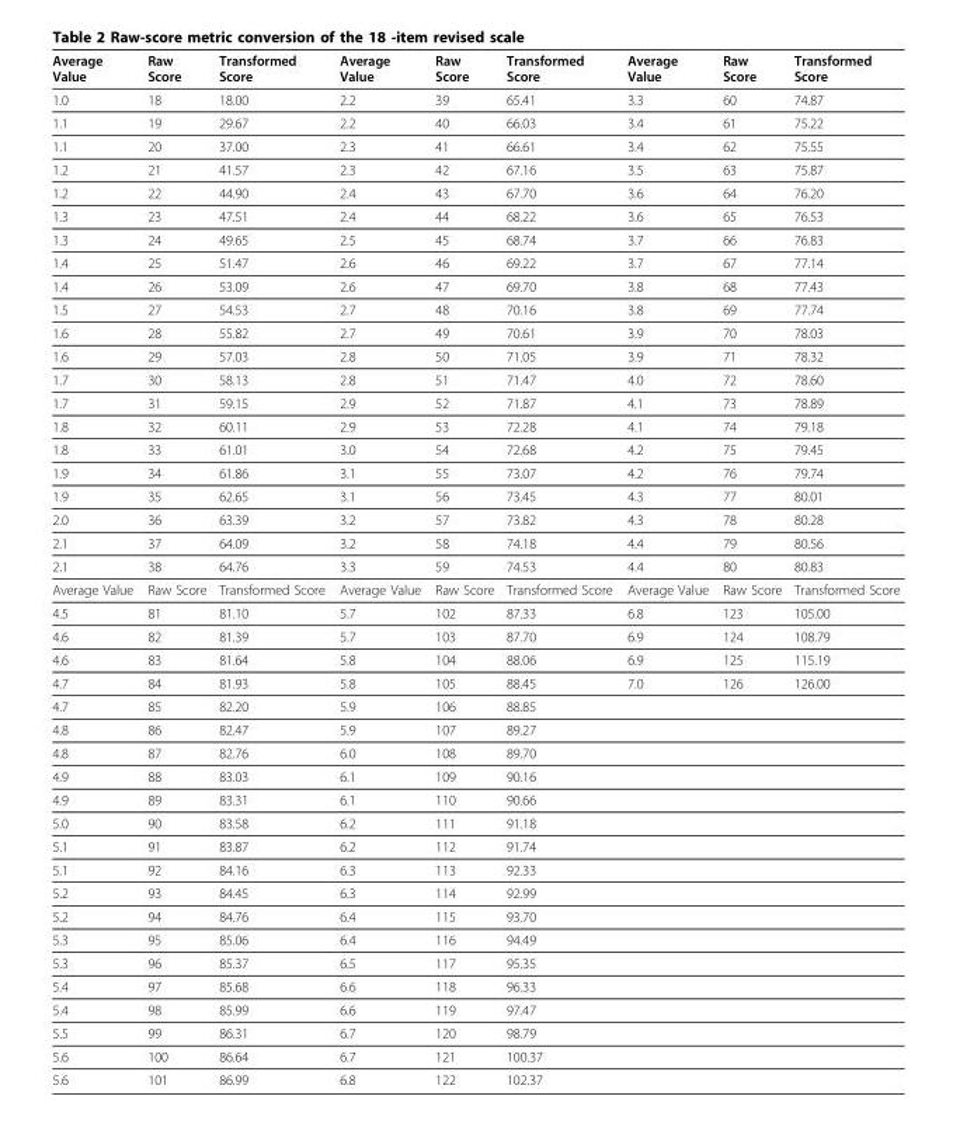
<table><thead><tr><td>Average Value</td><td>Raw Score</td><td>Transformed Score</td><td>Average Value</td><td>Raw Score</td><td>Transformed Score</td><td>Average Value</td><td>Raw Score</td><td>Transformed Score</td></tr></thead><tbody><tr><td>1.0</td><td>18</td><td>18.00</td><td>2.2</td><td>39</td><td>65.41</td><td>3.3</td><td>60</td><td>74.87</td></tr><tr><td>1.1</td><td>19</td><td>29.67</td><td>2.2</td><td>40</td><td>66.03</td><td>3.4</td><td>61</td><td>75.22</td></tr><tr><td>1.1</td><td>20</td><td>37.00</td><td>2.3</td><td>41</td><td>66.61</td><td>3.4</td><td>62</td><td>75.55</td></tr><tr><td>1.2</td><td>21</td><td>41.57</td><td>2.3</td><td>42</td><td>67.16</td><td>3.5</td><td>63</td><td>75.87</td></tr><tr><td>1.2</td><td>22</td><td>44.90</td><td>2.4</td><td>43</td><td>67.70</td><td>3.6</td><td>64</td><td>76.20</td></tr><tr><td>1.3</td><td>23</td><td>47.51</td><td>2.4</td><td>44</td><td>68.22</td><td>3.6</td><td>65</td><td>76.53</td></tr><tr><td>1.3</td><td>24</td><td>49.65</td><td>2.5</td><td>45</td><td>68.74</td><td>3.7</td><td>66</td><td>76.83</td></tr><tr><td>1.4</td><td>25</td><td>51.47</td><td>2.6</td><td>46</td><td>69.22</td><td>3.7</td><td>67</td><td>77.14</td></tr><tr><td>1.4</td><td>26</td><td>53.09</td><td>2.6</td><td>47</td><td>69.70</td><td>3.8</td><td>68</td><td>77.43</td></tr><tr><td>1.5</td><td>27</td><td>54.53</td><td>2.7</td><td>48</td><td>70.16</td><td>3.8</td><td>69</td><td>77.74</td></tr><tr><td>1.6</td><td>28</td><td>55.82</td><td>2.7</td><td>49</td><td>70.61</td><td>3.9</td><td>70</td><td>78.03</td></tr><tr><td>1.6</td><td>29</td><td>57.03</td><td>2.8</td><td>50</td><td>71.05</td><td>3.9</td><td>71</td><td>78.32</td></tr><tr><td>1.7</td><td>30</td><td>58.13</td><td>2.8</td><td>51</td><td>71.47</td><td>4.0</td><td>72</td><td>78.60</td></tr><tr><td>1.7</td><td>31</td><td>59.15</td><td>2.9</td><td>52</td><td>71.87</td><td>4.1</td><td>73</td><td>78.89</td></tr><tr><td>1.8</td><td>32</td><td>60.11</td><td>2.9</td><td>53</td><td>72.28</td><td>4.1</td><td>74</td><td>79.18</td></tr><tr><td>1.8</td><td>33</td><td>61.01</td><td>3.0</td><td>54</td><td>72.68</td><td>4.2</td><td>75</td><td>79.45</td></tr><tr><td>1.9</td><td>34</td><td>61.86</td><td>3.1</td><td>55</td><td>73.07</td><td>4.2</td><td>76</td><td>79.74</td></tr><tr><td>1.9</td><td>35</td><td>62.65</td><td>3.1</td><td>56</td><td>73.45</td><td>4.3</td><td>77</td><td>80.01</td></tr><tr><td>2.0</td><td>36</td><td>63.39</td><td>3.2</td><td>57</td><td>73.82</td><td>4.3</td><td>78</td><td>80.28</td></tr><tr><td>2.1</td><td>37</td><td>64.09</td><td>3.2</td><td>58</td><td>74.18</td><td>4.4</td><td>79</td><td>80.56</td></tr><tr><td>2.1</td><td>38</td><td>64.76</td><td>3.3</td><td>59</td><td>74.53</td><td>4.4</td><td>80</td><td>80.83</td></tr><tr><td>Average Value</td><td>Raw Score</td><td>Transformed Score</td><td>Average Value</td><td>Raw Score</td><td>Transformed Score</td><td>Average Value</td><td>Raw Score</td><td>Transformed Score</td></tr><tr><td>4.5</td><td>81</td><td>81.10</td><td>5.7</td><td>102</td><td>87.33</td><td>6.8</td><td>123</td><td>105.00</td></tr><tr><td>4.6</td><td>82</td><td>81.39</td><td>5.7</td><td>103</td><td>87.70</td><td>6.9</td><td>124</td><td>108.79</td></tr><tr><td>4.6</td><td>83</td><td>81.64</td><td>5.8</td><td>104</td><td>88.06</td><td>6.9</td><td>125</td><td>115.19</td></tr><tr><td>4.7</td><td>84</td><td>81.93</td><td>5.8</td><td>105</td><td>88.45</td><td>7.0</td><td>126</td><td>126.00</td></tr><tr><td>4.7</td><td>85</td><td>82.20</td><td>5.9</td><td>106</td><td>88.85</td><td></td><td></td><td></td></tr><tr><td>4.8</td><td>86</td><td>82.47</td><td>5.9</td><td>107</td><td>89.27</td><td></td><td></td><td></td></tr><tr><td>4.8</td><td>87</td><td>82.76</td><td>6.0</td><td>108</td><td>89.70</td><td></td><td></td><td></td></tr><tr><td>4.9</td><td>88</td><td>83.03</td><td>6.1</td><td>109</td><td>90.16</td><td></td><td></td><td></td></tr><tr><td>4.9</td><td>89</td><td>83.31</td><td>6.1</td><td>110</td><td>90.66</td><td></td><td></td><td></td></tr><tr><td>5.0</td><td>90</td><td>83.58</td><td>6.2</td><td>111</td><td>91.18</td><td></td><td></td><td></td></tr><tr><td>5.1</td><td>91</td><td>83.87</td><td>6.2</td><td>112</td><td>91.74</td><td></td><td></td><td></td></tr><tr><td>5.1</td><td>92</td><td>84.16</td><td>6.3</td><td>113</td><td>92.33</td><td></td><td></td><td></td></tr><tr><td>5.2</td><td>93</td><td>84.45</td><td>6.3</td><td>114</td><td>92.99</td><td></td><td></td><td></td></tr><tr><td>5.2</td><td>94</td><td>84.76</td><td>6.4</td><td>115</td><td>93.70</td><td></td><td></td><td></td></tr><tr><td>5.3</td><td>95</td><td>85.06</td><td>6.4</td><td>116</td><td>94.49</td><td></td><td></td><td></td></tr><tr><td>5.3</td><td>96</td><td>85.37</td><td>6.5</td><td>117</td><td>95.35</td><td></td><td></td><td></td></tr><tr><td>5.4</td><td>97</td><td>85.68</td><td>6.6</td><td>118</td><td>96.33</td><td></td><td></td><td></td></tr><tr><td>5.4</td><td>98</td><td>85.99</td><td>6.6</td><td>119</td><td>97.47</td><td></td><td></td><td></td></tr><tr><td>5.5</td><td>99</td><td>86.31</td><td>6.7</td><td>120</td><td>98.79</td><td></td><td></td><td></td></tr><tr><td>5.6</td><td>100</td><td>86.64</td><td>6.7</td><td>121</td><td>100.37</td><td></td><td></td><td></td></tr><tr><td>5.6</td><td>101</td><td>86.99</td><td>6.8</td><td>122</td><td>102.37</td><td></td><td></td><td></td></tr></tbody></table>